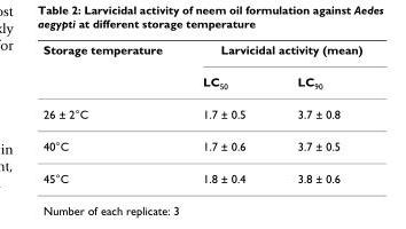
<table><thead><tr><td rowspan="2">Storage temperature</td><td colspan="2">Larvicidal activity (mean)</td></tr><tr><td>LC<sub>50</sub></td><td>LC<sub>90</sub></td></tr></thead><tbody><tr><td>26 ± 2°C</td><td>1.7 ± 0.5</td><td>3.7 ± 0.8</td></tr><tr><td>40°C</td><td>1.7 ± 0.6</td><td>3.7 ± 0.5</td></tr><tr><td>45°C</td><td>1.8 ± 0.4</td><td>3.8 ± 0.6</td></tr></tbody></table>